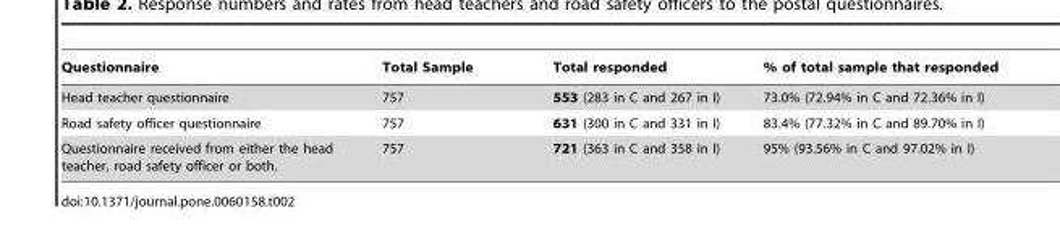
<table><thead><tr><td>Questionnaire</td><td>Total Sample</td><td>Total responded</td><td>% of total sample that responded</td></tr></thead><tbody><tr><td>Head teacher questionnaire</td><td>757</td><td>553 (283 in C and 267 in I)</td><td>73.0% (72.94% in C and 72.36% in I)</td></tr><tr><td>Road safety officer questionnaire</td><td>757</td><td>631 (300 in C and 331 in I)</td><td>83.4% (77.32% in C and 89.70% in I)</td></tr><tr><td>Questionnaire received from either the head teacher, road safety officer or both.</td><td>757</td><td>721 (363 in C and 358 in I)</td><td>95% (93.56% in C and 97.02% in I)</td></tr></tbody></table>